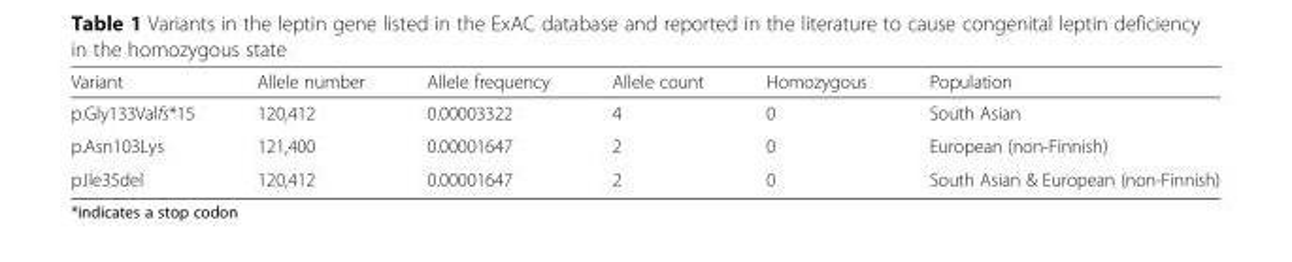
<table><thead><tr><td>Variant</td><td>Allele number</td><td>Allele frequency</td><td>Allele count</td><td>Homozygous</td><td>Population</td></tr></thead><tbody><tr><td>p.Gly133Valfs*15</td><td>120,412</td><td>0.00003322</td><td>4</td><td>0</td><td>South Asian</td></tr><tr><td>p.Asn103Lys</td><td>121,400</td><td>0.00001647</td><td>2</td><td>0</td><td>European (non-Finnish)</td></tr><tr><td>p.Ile35del</td><td>120,412</td><td>0.00001647</td><td>2</td><td>0</td><td>South Asian &amp; European (non-Finnish)</td></tr></tbody></table>